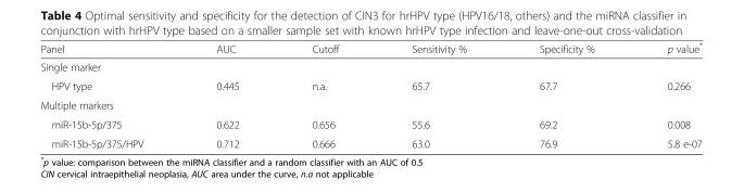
<table><thead><tr><td>Panel</td><td>AUC</td><td>Cutoff</td><td>Sensitivity %</td><td>Specificity %</td><td>p value*</td></tr></thead><tbody><tr><td colspan="6">Single marker</td></tr><tr><td>HPV type</td><td>0.445</td><td>n.a.</td><td>65.7</td><td>67.7</td><td>0.266</td></tr><tr><td colspan="6">Multiple markers</td></tr><tr><td>miR-15b-5p/375</td><td>0.622</td><td>0.656</td><td>55.6</td><td>69.2</td><td>0.008</td></tr><tr><td>miR-15b-5p/375/HPV</td><td>0.712</td><td>0.666</td><td>63.0</td><td>76.9</td><td>5.8 e-07</td></tr></tbody></table>